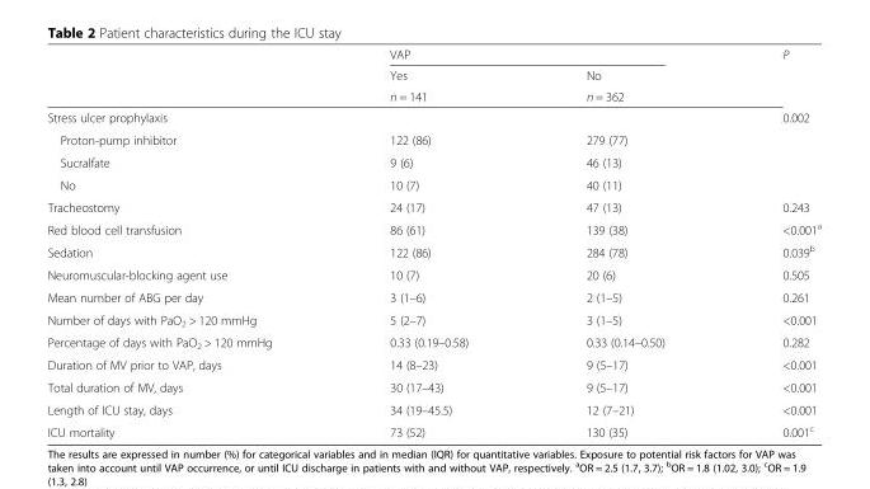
<table><thead><tr><td rowspan="3"></td><td colspan="2">VAP</td><td rowspan="3">P</td></tr><tr><td rowspan="2">Yes n = 141</td><td rowspan="2">No n = 362</td></tr><tr></tr></thead><tbody><tr><td>Stress ulcer prophylaxis</td><td></td><td></td><td>0.002</td></tr><tr><td>Proton-pump inhibitor</td><td>122 (86)</td><td>279 (77)</td><td></td></tr><tr><td>Sucralfate</td><td>9 (6)</td><td>46 (13)</td><td></td></tr><tr><td>No</td><td>10 (7)</td><td>40 (11)</td><td></td></tr><tr><td>Tracheostomy</td><td>24 (17)</td><td>47 (13)</td><td>0.243</td></tr><tr><td>Red blood cell transfusion</td><td>86 (61)</td><td>139 (38)</td><td>&lt;0.001<sup>a</sup></td></tr><tr><td>Sedation</td><td>122 (86)</td><td>284 (78)</td><td>0.039<sup>b</sup></td></tr><tr><td>Neuromuscular-blocking agent use</td><td>10 (7)</td><td>20 (6)</td><td>0.505</td></tr><tr><td>Mean number of ABG per day</td><td>3 (1–6)</td><td>2 (1–5)</td><td>0.261</td></tr><tr><td>Number of days with PaO<sub>2</sub> &gt; 120 mmHg</td><td>5 (2–7)</td><td>3 (1–5)</td><td>&lt;0.001</td></tr><tr><td>Percentage of days with PaO<sub>2</sub> &gt; 120 mmHg</td><td>0.33 (0.19–0.58)</td><td>0.33 (0.14–0.50)</td><td>0.282</td></tr><tr><td>Duration of MV prior to VAP, days</td><td>14 (8–23)</td><td>9 (5–17)</td><td>&lt;0.001</td></tr><tr><td>Total duration of MV, days</td><td>30 (17–43)</td><td>9 (5–17)</td><td>&lt;0.001</td></tr><tr><td>Length of ICU stay, days</td><td>34 (19–45.5)</td><td>12 (7–21)</td><td>&lt;0.001</td></tr><tr><td>ICU mortality</td><td>73 (52)</td><td>130 (35)</td><td>0.001<sup>c</sup></td></tr></tbody></table>